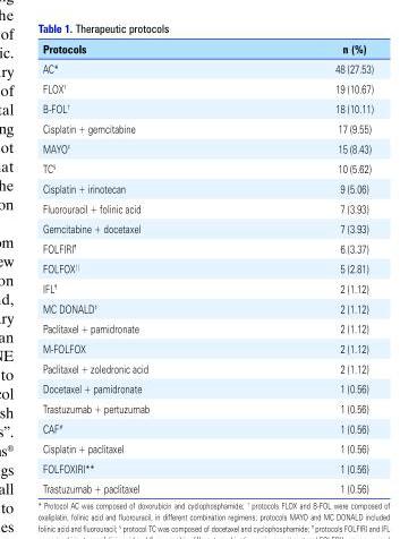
<table><thead><tr><td>Protocols</td><td>n (%)</td></tr></thead><tbody><tr><td>AC*</td><td>48 (27.53)</td></tr><tr><td>FLOX†</td><td>19 (10.67)</td></tr><tr><td>B-FOL†</td><td>18 (10.11)</td></tr><tr><td>Cisplatin + gemcitabine</td><td>17 (9.55)</td></tr><tr><td>MAYO<sup>‡</sup></td><td>15 (8.43)</td></tr><tr><td>TC§</td><td>10 (5.62)</td></tr><tr><td>Cisplatin + irinotecan</td><td>9 (5.06)</td></tr><tr><td>Fluorouracil + folinic acid</td><td>7 (3.93)</td></tr><tr><td>Gemcitabine + docetaxel</td><td>7 (3.93)</td></tr><tr><td>FOLFIRI¶</td><td>6 (3.37)</td></tr><tr><td>FOLFOX||</td><td>5 (2.81)</td></tr><tr><td>IFL¶</td><td>2 (1.12)</td></tr><tr><td>MC DONALD<sup>‡</sup></td><td>2 (1.12)</td></tr><tr><td>Paclitaxel + pamidronate</td><td>2 (1.12)</td></tr><tr><td>M-FOLFOX</td><td>2 (1.12)</td></tr><tr><td>Paclitaxel + zoledronic acid</td><td>2 (1.12)</td></tr><tr><td>Docetaxel + pamidronate</td><td>1 (0.56)</td></tr><tr><td>Trastuzumab + pertuzumab</td><td>1 (0.56)</td></tr><tr><td>CAF#</td><td>1 (0.56)</td></tr><tr><td>Cisplatin + paclitaxel</td><td>1 (0.56)</td></tr><tr><td>FOLFOXIRI**</td><td>1 (0.56)</td></tr><tr><td>Trastuzumab + paclitaxel</td><td>1 (0.56)</td></tr></tbody></table>